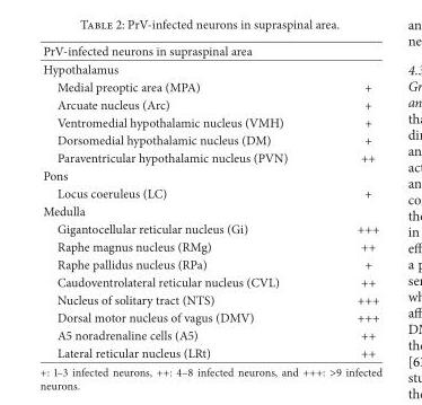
<table><thead><tr><td>PrV-infected neurons in supraspinal area</td><td></td></tr></thead><tbody><tr><td colspan="2">Hypothalamus</td></tr><tr><td>Medial preoptic area (MPA)</td><td>+</td></tr><tr><td>Arcuate nucleus (Arc)</td><td>+</td></tr><tr><td>Ventromedial hypothalamic nucleus (VMH)</td><td>+</td></tr><tr><td>Dorsomedial hypothalamic nucleus (DM)</td><td>+</td></tr><tr><td>Paraventricular hypothalamic nucleus (PVN)</td><td>++</td></tr><tr><td colspan="2">Pons</td></tr><tr><td>Locus coeruleus (LC)</td><td>+</td></tr><tr><td colspan="2">Medulla</td></tr><tr><td>Gigantocellular reticular nucleus (Gi)</td><td>+++</td></tr><tr><td>Raphe magnus nucleus (RMg)</td><td>++</td></tr><tr><td>Raphe pallidus nucleus (RPa)</td><td>+</td></tr><tr><td>Caudoventrolateral reticular nucleus (CVL)</td><td>++</td></tr><tr><td>Nucleus of solitary tract (NTS)</td><td>+++</td></tr><tr><td>Dorsal motor nucleus of vagus (DMV)</td><td>+++</td></tr><tr><td>A5 noradrenaline cells (A5)</td><td>++</td></tr><tr><td>Lateral reticular nucleus (LRt)</td><td>++</td></tr></tbody></table>